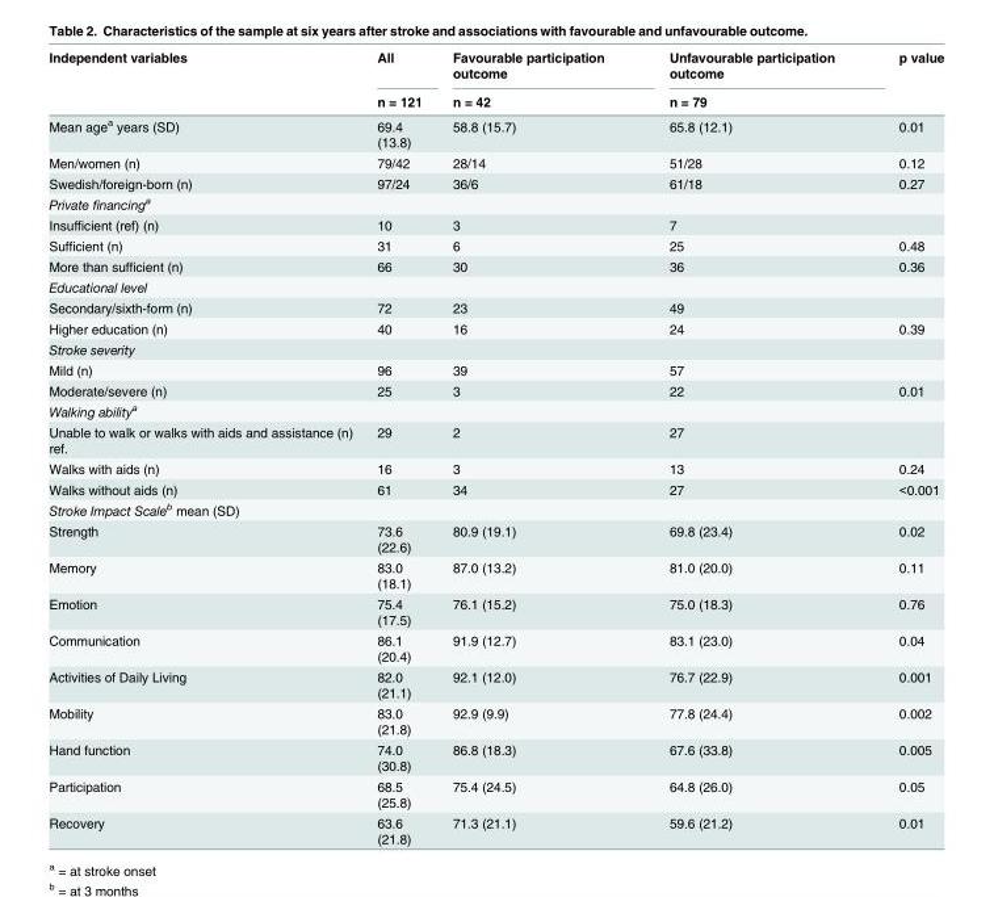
<table><thead><tr><td rowspan="2">Independent variables</td><td rowspan="2">All n = 121</td><td rowspan="2">Favourable participation outcome n = 42</td><td rowspan="2">Unfavourable participation outcome n = 79</td><td rowspan="2">p value</td></tr><tr></tr></thead><tbody><tr><td>Mean age<sup>a</sup> years (SD)</td><td>69.4 (13.8)</td><td>58.8 (15.7)</td><td>65.8 (12.1)</td><td>0.01</td></tr><tr><td>Men/women (n)</td><td>79/42</td><td>28/14</td><td>51/28</td><td>0.12</td></tr><tr><td>Swedish/foreign-born (n)</td><td>97/24</td><td>36/6</td><td>61/18</td><td>0.27</td></tr><tr><td colspan="5">Private financing<sup>a</sup></td></tr><tr><td>Insufficient (ref) (n)</td><td>10</td><td>3</td><td>7</td><td></td></tr><tr><td>Sufficient (n)</td><td>31</td><td>6</td><td>25</td><td>0.48</td></tr><tr><td>More than sufficient (n)</td><td>66</td><td>30</td><td>36</td><td>0.36</td></tr><tr><td colspan="5">Educational level</td></tr><tr><td>Secondary/sixth-form (n)</td><td>72</td><td>23</td><td>49</td><td></td></tr><tr><td>Higher education (n)</td><td>40</td><td>16</td><td>24</td><td>0.39</td></tr><tr><td colspan="5">Stroke severity</td></tr><tr><td>Mild (n)</td><td>96</td><td>39</td><td>57</td><td></td></tr><tr><td>Moderate/severe (n)</td><td>25</td><td>3</td><td>22</td><td>0.01</td></tr><tr><td colspan="5">Walking ability<sup>a</sup></td></tr><tr><td>Unable to walk or walks with aids and assistance (n) ref.</td><td>29</td><td>2</td><td>27</td><td></td></tr><tr><td>Walks with aids (n)</td><td>16</td><td>3</td><td>13</td><td>0.24</td></tr><tr><td>Walks without aids (n)</td><td>61</td><td>34</td><td>27</td><td>&lt;0.001</td></tr><tr><td colspan="5">Stroke Impact Scale<sup>b</sup> mean (SD)</td></tr><tr><td>Strength</td><td>73.6 (22.6)</td><td>80.9 (19.1)</td><td>69.8 (23.4)</td><td>0.02</td></tr><tr><td>Memory</td><td>83.0 (18.1)</td><td>87.0 (13.2)</td><td>81.0 (20.0)</td><td>0.11</td></tr><tr><td>Emotion</td><td>75.4 (17.5)</td><td>76.1 (15.2)</td><td>75.0 (18.3)</td><td>0.76</td></tr><tr><td>Communication</td><td>86.1 (20.4)</td><td>91.9 (12.7)</td><td>83.1 (23.0)</td><td>0.04</td></tr><tr><td>Activities of Daily Living</td><td>82.0 (21.1)</td><td>92.1 (12.0)</td><td>76.7 (22.9)</td><td>0.001</td></tr><tr><td>Mobility</td><td>83.0 (21.8)</td><td>92.9 (9.9)</td><td>77.8 (24.4)</td><td>0.002</td></tr><tr><td>Hand function</td><td>74.0 (30.8)</td><td>86.8 (18.3)</td><td>67.6 (33.8)</td><td>0.005</td></tr><tr><td>Participation</td><td>68.5 (25.8)</td><td>75.4 (24.5)</td><td>64.8 (26.0)</td><td>0.05</td></tr><tr><td>Recovery</td><td>63.6 (21.8)</td><td>71.3 (21.1)</td><td>59.6 (21.2)</td><td>0.01</td></tr></tbody></table>